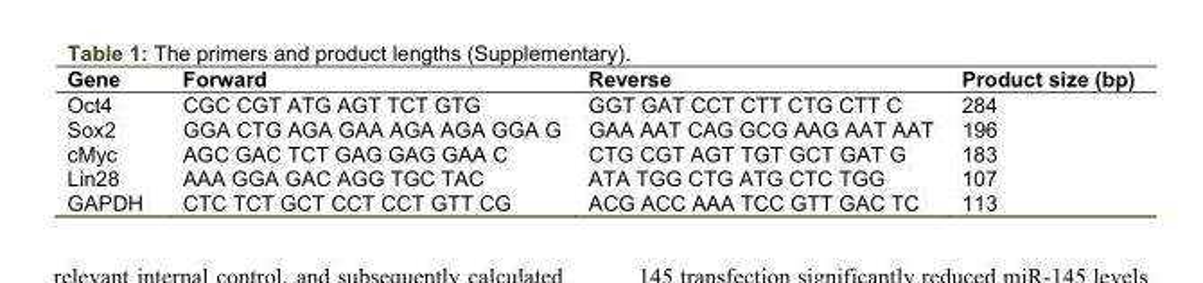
<table><thead><tr><td>Gene</td><td>Forward</td><td>Reverse</td><td>Product size (bp)</td></tr></thead><tbody><tr><td>Oct4</td><td>CGC CGT ATG AGT TCT GTG</td><td>GGT GAT CCT CTT CTG CTT C</td><td>284</td></tr><tr><td>Sox2</td><td>GGA CTG AGA GAA AGA AGA GGA G</td><td>GAA AAT CAG GCG AAG AAT AAT</td><td>196</td></tr><tr><td>cMyc</td><td>AGC GAC TCT GAG GAG GAA C</td><td>CTG CGT AGT TGT GCT GAT G</td><td>183</td></tr><tr><td>Lin28</td><td>AAA GGA GAC AGG TGC TAC</td><td>ATA TGG CTG ATG CTC TGG</td><td>107</td></tr><tr><td>GAPDH</td><td>CTC TCT GCT CCT CCT GTT CG</td><td>ACG ACC AAA TCC GTT GAC TC</td><td>113</td></tr></tbody></table>